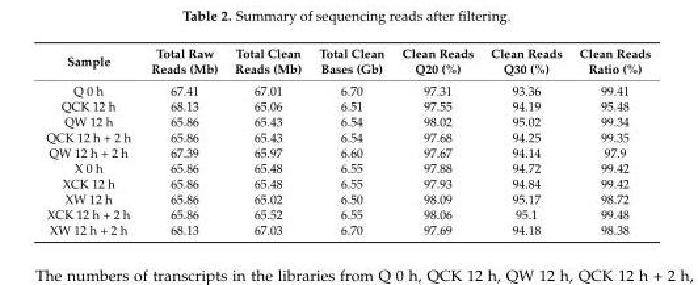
<table><thead><tr><td>Sample</td><td>Total Raw Reads (Mb)</td><td>Total Clean Reads (Mb)</td><td>Total Clean Bases (Gb)</td><td>Clean Reads Q20 (%)</td><td>Clean Reads Q30 (%)</td><td>Clean Reads Ratio (%)</td></tr></thead><tbody><tr><td>Q 0 h</td><td>67.41</td><td>67.01</td><td>6.70</td><td>97.31</td><td>93.36</td><td>99.41</td></tr><tr><td>QCK 12 h</td><td>68.13</td><td>65.06</td><td>6.51</td><td>97.55</td><td>94.19</td><td>95.48</td></tr><tr><td>QW 12 h</td><td>65.86</td><td>65.43</td><td>6.54</td><td>98.02</td><td>95.02</td><td>99.34</td></tr><tr><td>QCK 12 h + 2 h</td><td>65.86</td><td>65.43</td><td>6.54</td><td>97.68</td><td>94.25</td><td>99.35</td></tr><tr><td>QW 12 h + 2 h</td><td>67.39</td><td>65.97</td><td>6.60</td><td>97.67</td><td>94.14</td><td>97.9</td></tr><tr><td>X 0 h</td><td>65.86</td><td>65.48</td><td>6.55</td><td>97.88</td><td>94.72</td><td>99.42</td></tr><tr><td>XCK 12 h</td><td>65.86</td><td>65.48</td><td>6.55</td><td>97.93</td><td>94.84</td><td>99.42</td></tr><tr><td>XW 12 h</td><td>65.86</td><td>65.02</td><td>6.50</td><td>98.09</td><td>95.17</td><td>98.72</td></tr><tr><td>XCK 12 h + 2 h</td><td>65.86</td><td>65.52</td><td>6.55</td><td>98.06</td><td>95.1</td><td>99.48</td></tr><tr><td>XW 12 h + 2 h</td><td>68.13</td><td>67.03</td><td>6.70</td><td>97.69</td><td>94.18</td><td>98.38</td></tr></tbody></table>